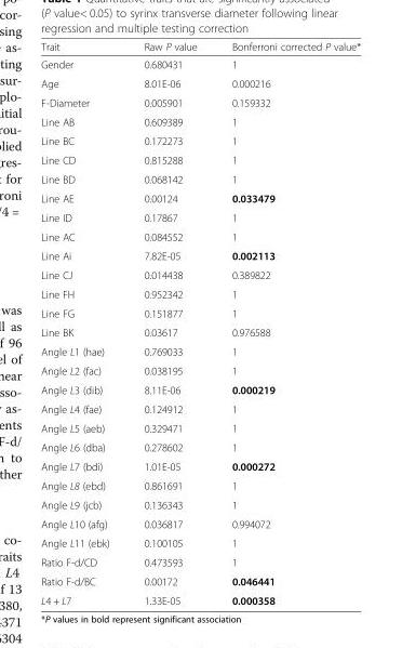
<table><thead><tr><td>Trait</td><td>Raw P value</td><td>Bonferroni corrected P value*</td></tr></thead><tbody><tr><td>Gender</td><td>0.680431</td><td>1</td></tr><tr><td>Age</td><td>8.01E-06</td><td>0.000216</td></tr><tr><td>F-Diameter</td><td>0.005901</td><td>0.159332</td></tr><tr><td>Line AB</td><td>0.609389</td><td>1</td></tr><tr><td>Line BC</td><td>0.172273</td><td>1</td></tr><tr><td>Line CD</td><td>0.815288</td><td>1</td></tr><tr><td>Line BD</td><td>0.068142</td><td>1</td></tr><tr><td>Line AE</td><td>0.00124</td><td>0.033479</td></tr><tr><td>Line ID</td><td>0.17867</td><td>1</td></tr><tr><td>Line AC</td><td>0.084552</td><td>1</td></tr><tr><td>Line Ai</td><td>7.82E-05</td><td>0.002113</td></tr><tr><td>Line CJ</td><td>0.014438</td><td>0.389822</td></tr><tr><td>Line FH</td><td>0.952342</td><td>1</td></tr><tr><td>Line FG</td><td>0.151877</td><td>1</td></tr><tr><td>Line BK</td><td>0.03617</td><td>0.976588</td></tr><tr><td>Angle L1 (hae)</td><td>0.769033</td><td>1</td></tr><tr><td>Angle L2 (fac)</td><td>0.038195</td><td>1</td></tr><tr><td>Angle L3 (dib)</td><td>8.11E-06</td><td>0.000219</td></tr><tr><td>Angle L4 (fae)</td><td>0.124912</td><td>1</td></tr><tr><td>Angle L5 (aeb)</td><td>0.329471</td><td>1</td></tr><tr><td>Angle L6 (dba)</td><td>0.278602</td><td>1</td></tr><tr><td>Angle L7 (bdi)</td><td>1.01E-05</td><td>0.000272</td></tr><tr><td>Angle L8 (ebd)</td><td>0.861691</td><td>1</td></tr><tr><td>Angle L9 (jcb)</td><td>0.136343</td><td>1</td></tr><tr><td>Angle L10 (afg)</td><td>0.036817</td><td>0.994072</td></tr><tr><td>Angle L11 (ebk)</td><td>0.100105</td><td>1</td></tr><tr><td>Ratio F-d/CD</td><td>0.473593</td><td>1</td></tr><tr><td>Ratio F-d/BC</td><td>0.00172</td><td>0.046441</td></tr><tr><td>L4 + L7</td><td>1.33E-05</td><td>0.000358</td></tr></tbody></table>